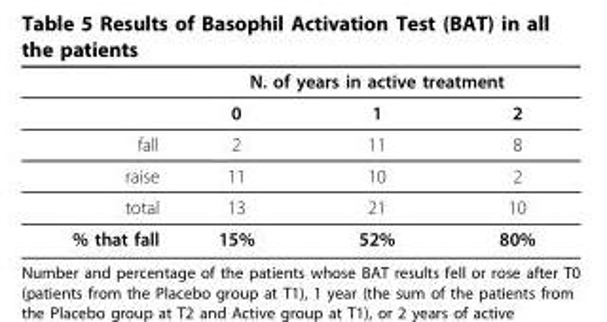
<table><thead><tr><td rowspan="2"></td><td colspan="3">N. of years in active treatment</td></tr><tr><td>0</td><td>1</td><td>2</td></tr></thead><tbody><tr><td>fall</td><td>2</td><td>11</td><td>8</td></tr><tr><td>raise</td><td>11</td><td>10</td><td>2</td></tr><tr><td>total</td><td>13</td><td>21</td><td>10</td></tr><tr><td>% that fall</td><td>15%</td><td>52%</td><td>80%</td></tr></tbody></table>